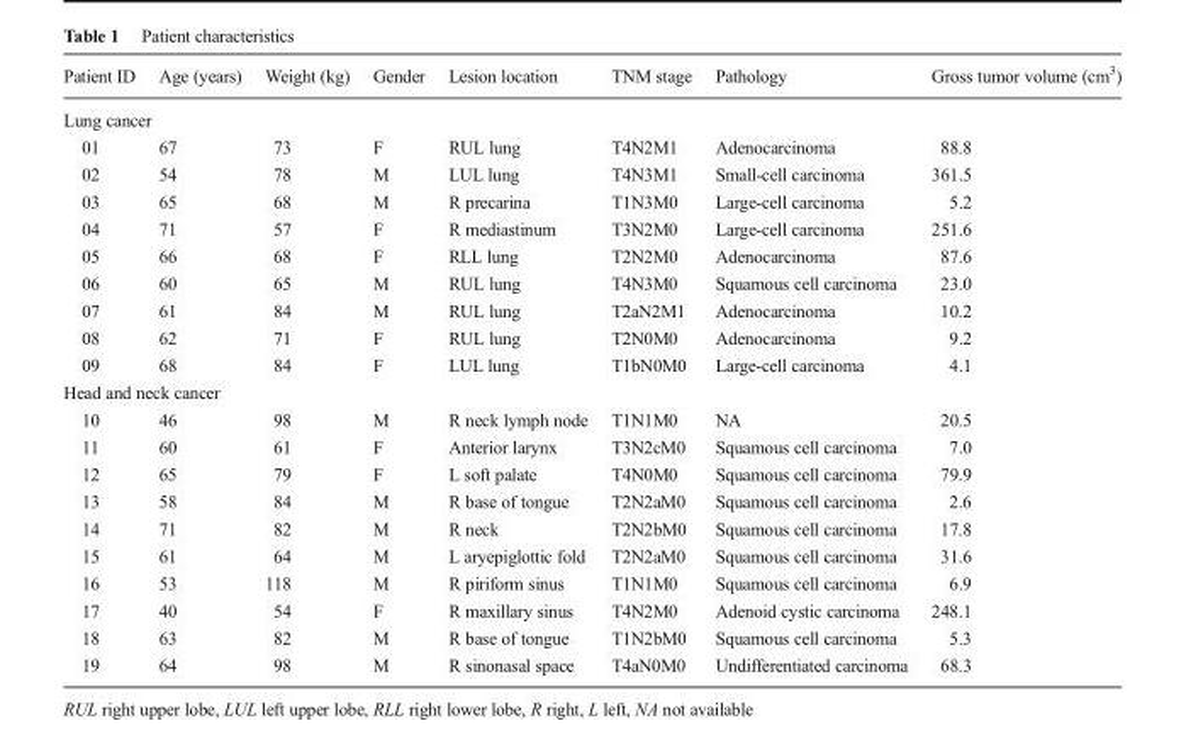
<table><thead><tr><td>Patient ID</td><td>Age (years)</td><td>Weight (kg)</td><td>Gender</td><td>Lesion location</td><td>TNM stage</td><td>Pathology</td><td>Gross tumor volume (cm<sup>3</sup>)</td></tr></thead><tbody><tr><td colspan="8">Lung cancer</td></tr><tr><td>01</td><td>67</td><td>73</td><td>F</td><td>RUL lung</td><td>T4N2M1</td><td>Adenocarcinoma</td><td>88.8</td></tr><tr><td>02</td><td>54</td><td>78</td><td>M</td><td>LUL lung</td><td>T4N3M1</td><td>Small-cell carcinoma</td><td>361.5</td></tr><tr><td>03</td><td>65</td><td>68</td><td>M</td><td>R precarina</td><td>T1N3M0</td><td>Large-cell carcinoma</td><td>5.2</td></tr><tr><td>04</td><td>71</td><td>57</td><td>F</td><td>R mediastinum</td><td>T3N2M0</td><td>Large-cell carcinoma</td><td>251.6</td></tr><tr><td>05</td><td>66</td><td>68</td><td>F</td><td>RLL lung</td><td>T2N2M0</td><td>Adenocarcinoma</td><td>87.6</td></tr><tr><td>06</td><td>60</td><td>65</td><td>M</td><td>RUL lung</td><td>T4N3M0</td><td>Squamous cell carcinoma</td><td>23.0</td></tr><tr><td>07</td><td>61</td><td>84</td><td>M</td><td>RUL lung</td><td>T2aN2M1</td><td>Adenocarcinoma</td><td>10.2</td></tr><tr><td>08</td><td>62</td><td>71</td><td>F</td><td>RUL lung</td><td>T2N0M0</td><td>Adenocarcinoma</td><td>9.2</td></tr><tr><td>09</td><td>68</td><td>84</td><td>F</td><td>LUL lung</td><td>T1bN0M0</td><td>Large-cell carcinoma</td><td>4.1</td></tr><tr><td colspan="8">Head and neck cancer</td></tr><tr><td>10</td><td>46</td><td>98</td><td>M</td><td>R neck lymph node</td><td>T1N1M0</td><td>NA</td><td>20.5</td></tr><tr><td>11</td><td>60</td><td>61</td><td>F</td><td>Anterior larynx</td><td>T3N2cM0</td><td>Squamous cell carcinoma</td><td>7.0</td></tr><tr><td>12</td><td>65</td><td>79</td><td>F</td><td>L soft palate</td><td>T4N0M0</td><td>Squamous cell carcinoma</td><td>79.9</td></tr><tr><td>13</td><td>58</td><td>84</td><td>M</td><td>R base of tongue</td><td>T2N2aM0</td><td>Squamous cell carcinoma</td><td>2.6</td></tr><tr><td>14</td><td>71</td><td>82</td><td>M</td><td>R neck</td><td>T2N2bM0</td><td>Squamous cell carcinoma</td><td>17.8</td></tr><tr><td>15</td><td>61</td><td>64</td><td>M</td><td>L aryepiglottic fold</td><td>T2N2aM0</td><td>Squamous cell carcinoma</td><td>31.6</td></tr><tr><td>16</td><td>53</td><td>118</td><td>M</td><td>R piriform sinus</td><td>T1N1M0</td><td>Squamous cell carcinoma</td><td>6.9</td></tr><tr><td>17</td><td>40</td><td>54</td><td>F</td><td>R maxillary sinus</td><td>T4N2M0</td><td>Adenoid cystic carcinoma</td><td>248.1</td></tr><tr><td>18</td><td>63</td><td>82</td><td>M</td><td>R base of tongue</td><td>T1N2bM0</td><td>Squamous cell carcinoma</td><td>5.3</td></tr><tr><td>19</td><td>64</td><td>98</td><td>M</td><td>R sinonasal space</td><td>T4aN0M0</td><td>Undifferentiated carcinoma</td><td>68.3</td></tr></tbody></table>